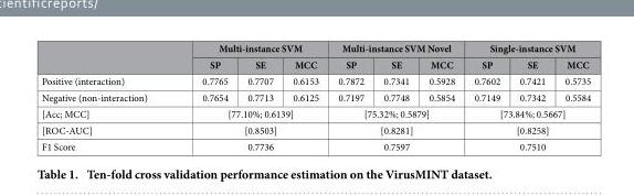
<table><thead><tr><td rowspan="2"></td><td colspan="3">Multi-instance SVM</td><td colspan="3">Multi-instance SVM Novel</td><td colspan="3">Single-instance SVM</td></tr><tr><td>SP</td><td>SE</td><td>MCC</td><td>SP</td><td>SE</td><td>MCC</td><td>SP</td><td>SE</td><td>MCC</td></tr></thead><tbody><tr><td>Positive (interaction)</td><td>0.7765</td><td>0.7707</td><td>0.6153</td><td>0.7872</td><td>0.7341</td><td>0.5928</td><td>0.7602</td><td>0.7421</td><td>0.5735</td></tr><tr><td>Negative (non-interaction)</td><td>0.7654</td><td>0.7713</td><td>0.6125</td><td>0.7197</td><td>0.7748</td><td>0.5854</td><td>0.7149</td><td>0.7342</td><td>0.5584</td></tr><tr><td>[Acc; MCC]</td><td colspan="3">[77.10%; 0.6139]</td><td colspan="3">[75.32%; 0.5879]</td><td colspan="3">[73.84%; 0.5667]</td></tr><tr><td>[ROC-AUC]</td><td colspan="3">[0.8503]</td><td colspan="3">[0.8281]</td><td colspan="3">[0.8258]</td></tr><tr><td>F1 Score</td><td colspan="3">0.7736</td><td colspan="3">0.7597</td><td colspan="3">0.7510</td></tr></tbody></table>